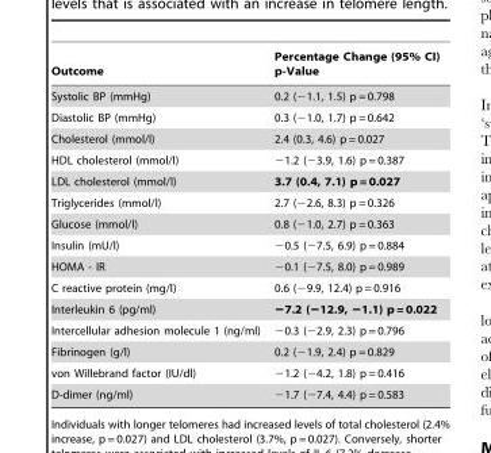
<table><thead><tr><td>Outcome</td><td>Percentage Change (95% CI) p-Value</td></tr></thead><tbody><tr><td>Systolic BP (mmHg)</td><td>0.2 (−1.1, 1.5) p = 0.798</td></tr><tr><td>Diastolic BP (mmHg)</td><td>0.3 (−1.0, 1.7) p = 0.642</td></tr><tr><td>Cholesterol (mmol/l)</td><td>2.4 (0.3, 4.6) p = 0.027</td></tr><tr><td>HDL cholesterol (mmol/l)</td><td>−1.2 (−3.9, 1.6) p = 0.387</td></tr><tr><td>LDL cholesterol (mmol/l)</td><td>3.7 (0.4, 7.1) p = 0.027</td></tr><tr><td>Triglycerides (mmol/l)</td><td>2.7 (−2.6, 8.3) p = 0.326</td></tr><tr><td>Glucose (mmol/l)</td><td>0.8 (−1.0, 2.7) p = 0.363</td></tr><tr><td>Insulin (mU/l)</td><td>−0.5 (−7.5, 6.9) p = 0.884</td></tr><tr><td>HOMA - IR</td><td>−0.1 (−7.5, 8.0) p = 0.989</td></tr><tr><td>C reactive protein (mg/l)</td><td>0.6 (−9.9, 12.4) p = 0.916</td></tr><tr><td>Interleukin 6 (pg/ml)</td><td>−7.2 (−12.9, −1.1) p = 0.022</td></tr><tr><td>Intercellular adhesion molecule 1 (ng/ml)</td><td>−0.3 (−2.9, 2.3) p = 0.796</td></tr><tr><td>Fibrinogen (g/l)</td><td>0.2 (−1.9, 2.4) p = 0.829</td></tr><tr><td>von Willebrand factor (IU/dl)</td><td>−1.2 (−4.2, 1.8) p = 0.416</td></tr><tr><td>D-dimer (ng/ml)</td><td>−1.7 (−7.4, 4.4) p = 0.583</td></tr></tbody></table>